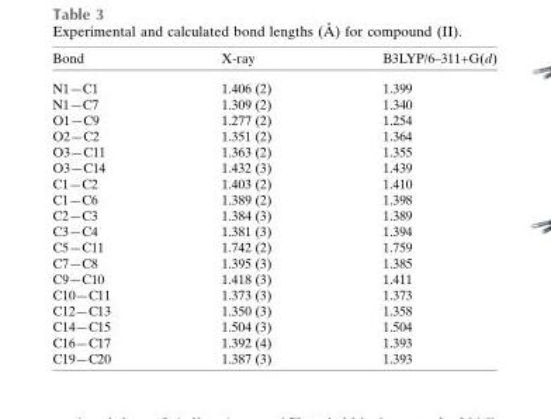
<table><thead><tr><td>Bond</td><td>X-ray</td><td>B3LYP/6–311+G(d)</td></tr></thead><tbody><tr><td>N1—C1</td><td>1.406 (2)</td><td>1.399</td></tr><tr><td>N1—C7</td><td>1.309 (2)</td><td>1.340</td></tr><tr><td>O1—C9</td><td>1.277 (2)</td><td>1.254</td></tr><tr><td>O2—C2</td><td>1.351 (2)</td><td>1.364</td></tr><tr><td>O3—C11</td><td>1.363 (2)</td><td>1.355</td></tr><tr><td>O3—C14</td><td>1.432 (3)</td><td>1.439</td></tr><tr><td>C1—C2</td><td>1.403 (2)</td><td>1.410</td></tr><tr><td>C1—C6</td><td>1.389 (2)</td><td>1.398</td></tr><tr><td>C2—C3</td><td>1.384 (3)</td><td>1.389</td></tr><tr><td>C3—C4</td><td>1.381 (3)</td><td>1.394</td></tr><tr><td>C5—C11</td><td>1.742 (2)</td><td>1.759</td></tr><tr><td>C7—C8</td><td>1.395 (3)</td><td>1.385</td></tr><tr><td>C9—C10</td><td>1.418 (3)</td><td>1.411</td></tr><tr><td>C10—C11</td><td>1.373 (3)</td><td>1.373</td></tr><tr><td>C12—C13</td><td>1.350 (3)</td><td>1.358</td></tr><tr><td>C14—C15</td><td>1.504 (3)</td><td>1.504</td></tr><tr><td>C16—C17</td><td>1.392 (4)</td><td>1.393</td></tr><tr><td>C19—C20</td><td>1.387 (3)</td><td>1.393</td></tr></tbody></table>